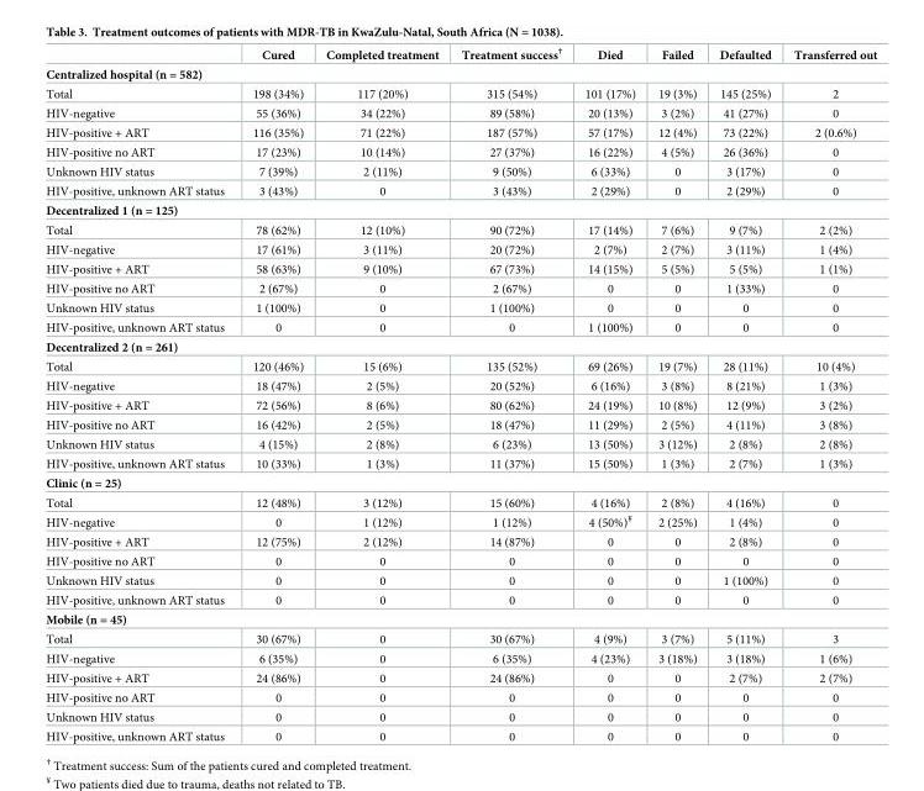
<table><thead><tr><td></td><td>Cured</td><td>Completed treatment</td><td>Treatment success<sup>†</sup></td><td>Died</td><td>Failed</td><td>Defaulted</td><td>Transferred out</td></tr></thead><tbody><tr><td colspan="8">Centralized hospital (n = 582)</td></tr><tr><td>Total</td><td>198 (34%)</td><td>117 (20%)</td><td>315 (54%)</td><td>101 (17%)</td><td>19 (3%)</td><td>145 (25%)</td><td>2</td></tr><tr><td>HIV-negative</td><td>55 (36%)</td><td>34 (22%)</td><td>89 (58%)</td><td>20 (13%)</td><td>3 (2%)</td><td>41 (27%)</td><td>0</td></tr><tr><td>HIV-positive + ART</td><td>116 (35%)</td><td>71 (22%)</td><td>187 (57%)</td><td>57 (17%)</td><td>12 (4%)</td><td>73 (22%)</td><td>2 (0.6%)</td></tr><tr><td>HIV-positive no ART</td><td>17 (23%)</td><td>10 (14%)</td><td>27 (37%)</td><td>16 (22%)</td><td>4 (5%)</td><td>26 (36%)</td><td>0</td></tr><tr><td>Unknown HIV status</td><td>7 (39%)</td><td>2 (11%)</td><td>9 (50%)</td><td>6 (33%)</td><td>0</td><td>3 (17%)</td><td>0</td></tr><tr><td>HIV-positive, unknown ART status</td><td>3 (43%)</td><td>0</td><td>3 (43%)</td><td>2 (29%)</td><td>0</td><td>2 (29%)</td><td>0</td></tr><tr><td colspan="8">Decentralized 1 (n = 125)</td></tr><tr><td>Total</td><td>78 (62%)</td><td>12 (10%)</td><td>90 (72%)</td><td>17 (14%)</td><td>7 (6%)</td><td>9 (7%)</td><td>2 (2%)</td></tr><tr><td>HIV-negative</td><td>17 (61%)</td><td>3 (11%)</td><td>20 (72%)</td><td>2 (7%)</td><td>2 (7%)</td><td>3 (11%)</td><td>1 (4%)</td></tr><tr><td>HIV-positive + ART</td><td>58 (63%)</td><td>9 (10%)</td><td>67 (73%)</td><td>14 (15%)</td><td>5 (5%)</td><td>5 (5%)</td><td>1 (1%)</td></tr><tr><td>HIV-positive no ART</td><td>2 (67%)</td><td>0</td><td>2 (67%)</td><td>0</td><td>0</td><td>1 (33%)</td><td>0</td></tr><tr><td>Unknown HIV status</td><td>1 (100%)</td><td>0</td><td>1 (100%)</td><td>0</td><td>0</td><td>0</td><td>0</td></tr><tr><td>HIV-positive, unknown ART status</td><td>0</td><td>0</td><td>0</td><td>1 (100%)</td><td>0</td><td>0</td><td>0</td></tr><tr><td colspan="8">Decentralized 2 (n = 261)</td></tr><tr><td>Total</td><td>120 (46%)</td><td>15 (6%)</td><td>135 (52%)</td><td>69 (26%)</td><td>19 (7%)</td><td>28 (11%)</td><td>10 (4%)</td></tr><tr><td>HIV-negative</td><td>18 (47%)</td><td>2 (5%)</td><td>20 (52%)</td><td>6 (16%)</td><td>3 (8%)</td><td>8 (21%)</td><td>1 (3%)</td></tr><tr><td>HIV-positive + ART</td><td>72 (56%)</td><td>8 (6%)</td><td>80 (62%)</td><td>24 (19%)</td><td>10 (8%)</td><td>12 (9%)</td><td>3 (2%)</td></tr><tr><td>HIV-positive no ART</td><td>16 (42%)</td><td>2 (5%)</td><td>18 (47%)</td><td>11 (29%)</td><td>2 (5%)</td><td>4 (11%)</td><td>3 (8%)</td></tr><tr><td>Unknown HIV status</td><td>4 (15%)</td><td>2 (8%)</td><td>6 (23%)</td><td>13 (50%)</td><td>3 (12%)</td><td>2 (8%)</td><td>2 (8%)</td></tr><tr><td>HIV-positive, unknown ART status</td><td>10 (33%)</td><td>1 (3%)</td><td>11 (37%)</td><td>15 (50%)</td><td>1 (3%)</td><td>2 (7%)</td><td>1 (3%)</td></tr><tr><td colspan="8">Clinic (n = 25)</td></tr><tr><td>Total</td><td>12 (48%)</td><td>3 (12%)</td><td>15 (60%)</td><td>4 (16%)</td><td>2 (8%)</td><td>4 (16%)</td><td>0</td></tr><tr><td>HIV-negative</td><td>0</td><td>1 (12%)</td><td>1 (12%)</td><td>4 (50%)<sup>¥</sup></td><td>2 (25%)</td><td>1 (4%)</td><td>0</td></tr><tr><td>HIV-positive + ART</td><td>12 (75%)</td><td>2 (12%)</td><td>14 (87%)</td><td>0</td><td>0</td><td>2 (8%)</td><td>0</td></tr><tr><td>HIV-positive no ART</td><td>0</td><td>0</td><td>0</td><td>0</td><td>0</td><td>0</td><td>0</td></tr><tr><td>Unknown HIV status</td><td>0</td><td>0</td><td>0</td><td>0</td><td>0</td><td>1 (100%)</td><td>0</td></tr><tr><td>HIV-positive, unknown ART status</td><td>0</td><td>0</td><td>0</td><td>0</td><td>0</td><td>0</td><td>0</td></tr><tr><td colspan="8">Mobile (n = 45)</td></tr><tr><td>Total</td><td>30 (67%)</td><td>0</td><td>30 (67%)</td><td>4 (9%)</td><td>3 (7%)</td><td>5 (11%)</td><td>3</td></tr><tr><td>HIV-negative</td><td>6 (35%)</td><td>0</td><td>6 (35%)</td><td>4 (23%)</td><td>3 (18%)</td><td>3 (18%)</td><td>1 (6%)</td></tr><tr><td>HIV-positive + ART</td><td>24 (86%)</td><td>0</td><td>24 (86%)</td><td>0</td><td>0</td><td>2 (7%)</td><td>2 (7%)</td></tr><tr><td>HIV-positive no ART</td><td>0</td><td>0</td><td>0</td><td>0</td><td>0</td><td>0</td><td>0</td></tr><tr><td>Unknown HIV status</td><td>0</td><td>0</td><td>0</td><td>0</td><td>0</td><td>0</td><td>0</td></tr><tr><td>HIV-positive, unknown ART status</td><td>0</td><td>0</td><td>0</td><td>0</td><td>0</td><td>0</td><td>0</td></tr></tbody></table>